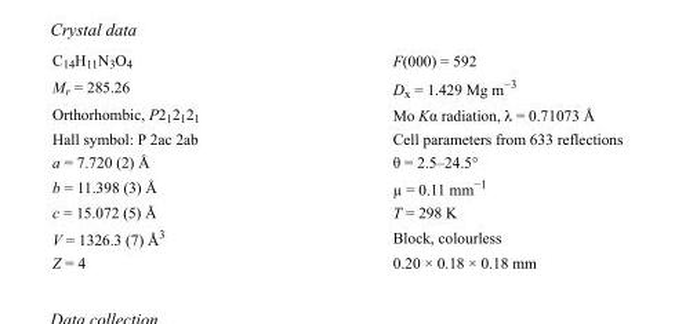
<table><tbody><tr><td>C<sub>14</sub>H<sub>11</sub>N<sub>3</sub>O<sub>4</sub></td><td>F(000) = 592</td></tr><tr><td>M<sub>r</sub> = 285.26</td><td>D<sub>x</sub> = 1.429 Mg m<sup>−3</sup></td></tr><tr><td>Orthorhombic, P2<sub>1</sub>2<sub>1</sub>2<sub>1</sub></td><td>Mo Kα radiation, λ = 0.71073 Å</td></tr><tr><td>Hall symbol: P 2ac 2ab</td><td>Cell parameters from 633 reflections</td></tr><tr><td>a = 7.720 (2) Å</td><td>θ = 2.5–24.5°</td></tr><tr><td>b = 11.398 (3) Å</td><td>µ = 0.11 mm<sup>−1</sup></td></tr><tr><td>c = 15.072 (5) Å</td><td>T = 298 K</td></tr><tr><td>V = 1326.3 (7) Å<sup>3</sup></td><td>Block, colourless</td></tr><tr><td>Z = 4</td><td>0.20 × 0.18 × 0.18 mm</td></tr></tbody></table>